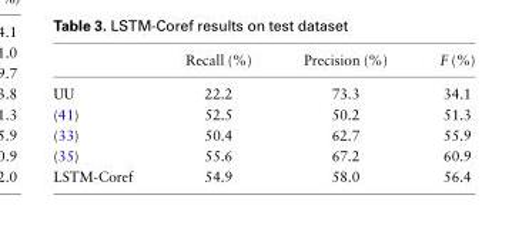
<table><thead><tr><td></td><td>Recall (%)</td><td>Precision (%)</td><td>F (%)</td></tr></thead><tbody><tr><td>UU</td><td>22.2</td><td>73.3</td><td>34.1</td></tr><tr><td>(41)</td><td>52.5</td><td>50.2</td><td>51.3</td></tr><tr><td>(33)</td><td>50.4</td><td>62.7</td><td>55.9</td></tr><tr><td>(35)</td><td>55.6</td><td>67.2</td><td>60.9</td></tr><tr><td>LSTM-Coref</td><td>54.9</td><td>58.0</td><td>56.4</td></tr></tbody></table>